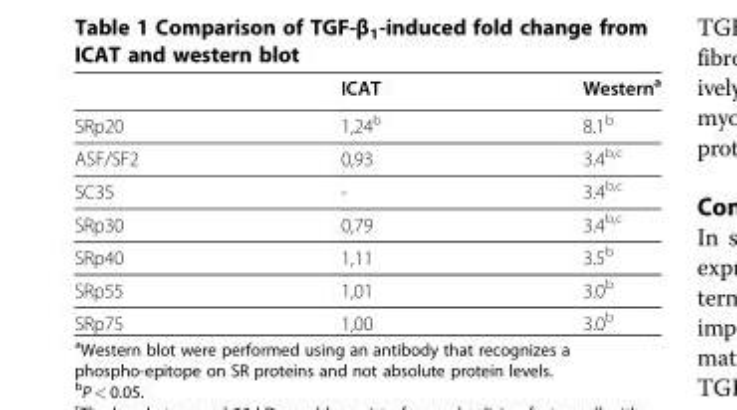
<table><thead><tr><td></td><td>ICAT</td><td>Western<sup>a</sup></td></tr></thead><tbody><tr><td>SRp20</td><td>1,24<sup>b</sup></td><td>8.1<sup>b</sup></td></tr><tr><td>ASF/SF2</td><td>0,93</td><td>3.4<sup>b,c</sup></td></tr><tr><td>SC35</td><td>-</td><td>3.4<sup>b,c</sup></td></tr><tr><td>SRp30</td><td>0,79</td><td>3.4<sup>b,c</sup></td></tr><tr><td>SRp40</td><td>1,11</td><td>3.5<sup>b</sup></td></tr><tr><td>SRp55</td><td>1,01</td><td>3.0<sup>b</sup></td></tr><tr><td>SRp75</td><td>1,00</td><td>3.0<sup>b</sup></td></tr></tbody></table>